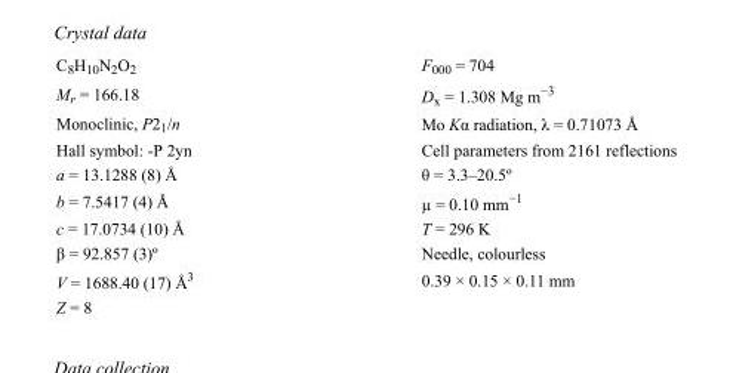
<table><tbody><tr><td>C<sub>8</sub>H<sub>10</sub>N<sub>2</sub>O<sub>2</sub></td><td>F000 = 704</td></tr><tr><td>M<sub>r</sub> = 166.18</td><td>D<sub>x</sub> = 1.308 Mg m<sup>−3</sup></td></tr><tr><td>Monoclinic, P2<sub>1</sub>/n</td><td>Mo Kα radiation, λ = 0.71073 Å</td></tr><tr><td>Hall symbol: -P 2yn</td><td>Cell parameters from 2161 reflections</td></tr><tr><td>a = 13.1288 (8) Å</td><td>θ = 3.3–20.5º</td></tr><tr><td>b = 7.5417 (4) Å</td><td>µ = 0.10 mm<sup>−1</sup></td></tr><tr><td>c = 17.0734 (10) Å</td><td>T = 296 K</td></tr><tr><td>β = 92.857 (3)º</td><td>Needle, colourless</td></tr><tr><td>V = 1688.40 (17) Å<sup>3</sup></td><td>0.39 × 0.15 × 0.11 mm</td></tr><tr><td>Z = 8</td><td></td></tr></tbody></table>